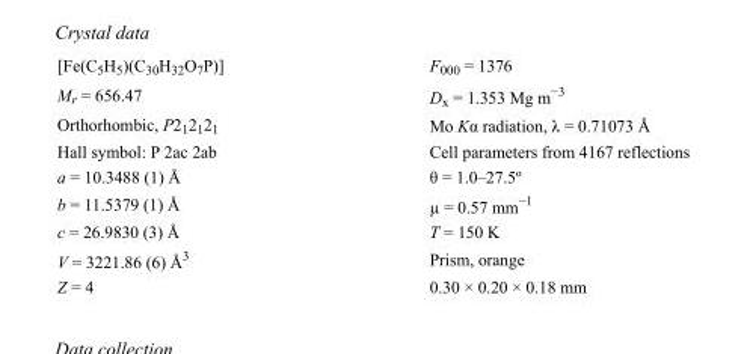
<table><tbody><tr><td>[Fe(C<sub>5</sub>H<sub>5</sub>)(C<sub>30</sub>H<sub>32</sub>O<sub>7</sub>P)]</td><td>F000 = 1376</td></tr><tr><td>M<sub>r</sub> = 656.47</td><td>D<sub>x</sub> = 1.353 Mg m<sup>−3</sup></td></tr><tr><td>Orthorhombic, P2<sub>1</sub>2<sub>1</sub>2<sub>1</sub></td><td>Mo Kα radiation, λ = 0.71073 Å</td></tr><tr><td>Hall symbol: P 2ac 2ab</td><td>Cell parameters from 4167 reflections</td></tr><tr><td>a = 10.3488 (1) Å</td><td>θ = 1.0–27.5º</td></tr><tr><td>b = 11.5379 (1) Å</td><td>µ = 0.57 mm−1</td></tr><tr><td>c = 26.9830 (3) Å</td><td>T = 150 K</td></tr><tr><td>V = 3221.86 (6) Å<sup>3</sup></td><td>Prism, orange</td></tr><tr><td>Z = 4</td><td>0.30 × 0.20 × 0.18 mm</td></tr></tbody></table>